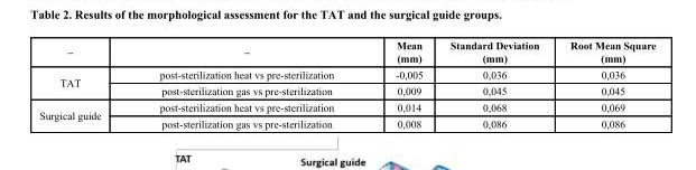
<table><thead><tr><td>–</td><td>–</td><td>Mean (mm)</td><td>Standard Deviation (mm)</td><td>Root Mean Square (mm)</td></tr></thead><tbody><tr><td rowspan="2">TAT</td><td>post-sterilization heat vs pre-sterilization</td><td>-0,005</td><td>0,036</td><td>0,036</td></tr><tr><td>post-sterilization gas vs pre-sterilization</td><td>0,009</td><td>0,045</td><td>0,045</td></tr><tr><td rowspan="2">Surgical guide</td><td>post-sterilization heat vs pre-sterilization</td><td>0,014</td><td>0,068</td><td>0,069</td></tr><tr><td>post-sterilization gas vs pre-sterilization</td><td>0,008</td><td>0,086</td><td>0,086</td></tr></tbody></table>